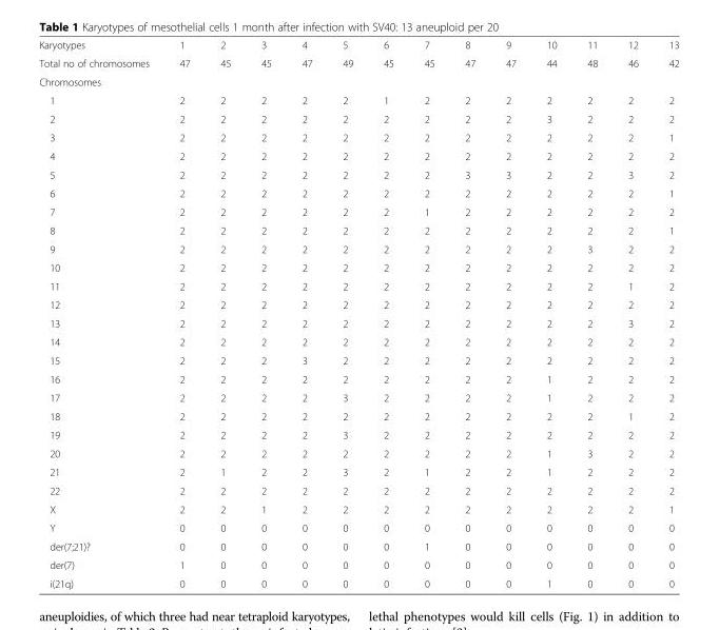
<table><tbody><tr><td>Karyotypes</td><td>1</td><td>2</td><td>3</td><td>4</td><td>5</td><td>6</td><td>7</td><td>8</td><td>9</td><td>10</td><td>11</td><td>12</td><td>13</td></tr><tr><td>Total no of chromosomes</td><td>47</td><td>45</td><td>45</td><td>47</td><td>49</td><td>45</td><td>45</td><td>47</td><td>47</td><td>44</td><td>48</td><td>46</td><td>42</td></tr><tr><td colspan="14">Chromosomes</td></tr><tr><td>1</td><td>2</td><td>2</td><td>2</td><td>2</td><td>2</td><td>1</td><td>2</td><td>2</td><td>2</td><td>2</td><td>2</td><td>2</td><td>2</td></tr><tr><td>2</td><td>2</td><td>2</td><td>2</td><td>2</td><td>2</td><td>2</td><td>2</td><td>2</td><td>2</td><td>3</td><td>2</td><td>2</td><td>2</td></tr><tr><td>3</td><td>2</td><td>2</td><td>2</td><td>2</td><td>2</td><td>2</td><td>2</td><td>2</td><td>2</td><td>2</td><td>2</td><td>2</td><td>1</td></tr><tr><td>4</td><td>2</td><td>2</td><td>2</td><td>2</td><td>2</td><td>2</td><td>2</td><td>2</td><td>2</td><td>2</td><td>2</td><td>2</td><td>2</td></tr><tr><td>5</td><td>2</td><td>2</td><td>2</td><td>2</td><td>2</td><td>2</td><td>2</td><td>3</td><td>3</td><td>2</td><td>2</td><td>3</td><td>2</td></tr><tr><td>6</td><td>2</td><td>2</td><td>2</td><td>2</td><td>2</td><td>2</td><td>2</td><td>2</td><td>2</td><td>2</td><td>2</td><td>2</td><td>1</td></tr><tr><td>7</td><td>2</td><td>2</td><td>2</td><td>2</td><td>2</td><td>2</td><td>1</td><td>2</td><td>2</td><td>2</td><td>2</td><td>2</td><td>2</td></tr><tr><td>8</td><td>2</td><td>2</td><td>2</td><td>2</td><td>2</td><td>2</td><td>2</td><td>2</td><td>2</td><td>2</td><td>2</td><td>2</td><td>1</td></tr><tr><td>9</td><td>2</td><td>2</td><td>2</td><td>2</td><td>2</td><td>2</td><td>2</td><td>2</td><td>2</td><td>2</td><td>3</td><td>2</td><td>2</td></tr><tr><td>10</td><td>2</td><td>2</td><td>2</td><td>2</td><td>2</td><td>2</td><td>2</td><td>2</td><td>2</td><td>2</td><td>2</td><td>2</td><td>2</td></tr><tr><td>11</td><td>2</td><td>2</td><td>2</td><td>2</td><td>2</td><td>2</td><td>2</td><td>2</td><td>2</td><td>2</td><td>2</td><td>1</td><td>2</td></tr><tr><td>12</td><td>2</td><td>2</td><td>2</td><td>2</td><td>2</td><td>2</td><td>2</td><td>2</td><td>2</td><td>2</td><td>2</td><td>2</td><td>2</td></tr><tr><td>13</td><td>2</td><td>2</td><td>2</td><td>2</td><td>2</td><td>2</td><td>2</td><td>2</td><td>2</td><td>2</td><td>2</td><td>3</td><td>2</td></tr><tr><td>14</td><td>2</td><td>2</td><td>2</td><td>2</td><td>2</td><td>2</td><td>2</td><td>2</td><td>2</td><td>2</td><td>2</td><td>2</td><td>2</td></tr><tr><td>15</td><td>2</td><td>2</td><td>2</td><td>3</td><td>2</td><td>2</td><td>2</td><td>2</td><td>2</td><td>2</td><td>2</td><td>2</td><td>2</td></tr><tr><td>16</td><td>2</td><td>2</td><td>2</td><td>2</td><td>2</td><td>2</td><td>2</td><td>2</td><td>2</td><td>1</td><td>2</td><td>2</td><td>2</td></tr><tr><td>17</td><td>2</td><td>2</td><td>2</td><td>2</td><td>3</td><td>2</td><td>2</td><td>2</td><td>2</td><td>1</td><td>2</td><td>2</td><td>2</td></tr><tr><td>18</td><td>2</td><td>2</td><td>2</td><td>2</td><td>2</td><td>2</td><td>2</td><td>2</td><td>2</td><td>2</td><td>2</td><td>1</td><td>2</td></tr><tr><td>19</td><td>2</td><td>2</td><td>2</td><td>2</td><td>3</td><td>2</td><td>2</td><td>2</td><td>2</td><td>2</td><td>2</td><td>2</td><td>2</td></tr><tr><td>20</td><td>2</td><td>2</td><td>2</td><td>2</td><td>2</td><td>2</td><td>2</td><td>2</td><td>2</td><td>1</td><td>3</td><td>2</td><td>2</td></tr><tr><td>21</td><td>2</td><td>1</td><td>2</td><td>2</td><td>3</td><td>2</td><td>1</td><td>2</td><td>2</td><td>1</td><td>2</td><td>2</td><td>2</td></tr><tr><td>22</td><td>2</td><td>2</td><td>2</td><td>2</td><td>2</td><td>2</td><td>2</td><td>2</td><td>2</td><td>2</td><td>2</td><td>2</td><td>2</td></tr><tr><td>X</td><td>2</td><td>2</td><td>1</td><td>2</td><td>2</td><td>2</td><td>2</td><td>2</td><td>2</td><td>2</td><td>2</td><td>2</td><td>1</td></tr><tr><td>Y</td><td>0</td><td>0</td><td>0</td><td>0</td><td>0</td><td>0</td><td>0</td><td>0</td><td>0</td><td>0</td><td>0</td><td>0</td><td>0</td></tr><tr><td>der(7;21)?</td><td>0</td><td>0</td><td>0</td><td>0</td><td>0</td><td>0</td><td>1</td><td>0</td><td>0</td><td>0</td><td>0</td><td>0</td><td>0</td></tr><tr><td>der(7)</td><td>1</td><td>0</td><td>0</td><td>0</td><td>0</td><td>0</td><td>0</td><td>0</td><td>0</td><td>0</td><td>0</td><td>0</td><td>0</td></tr><tr><td>i(21q)</td><td>0</td><td>0</td><td>0</td><td>0</td><td>0</td><td>0</td><td>0</td><td>0</td><td>0</td><td>1</td><td>0</td><td>0</td><td>0</td></tr></tbody></table>